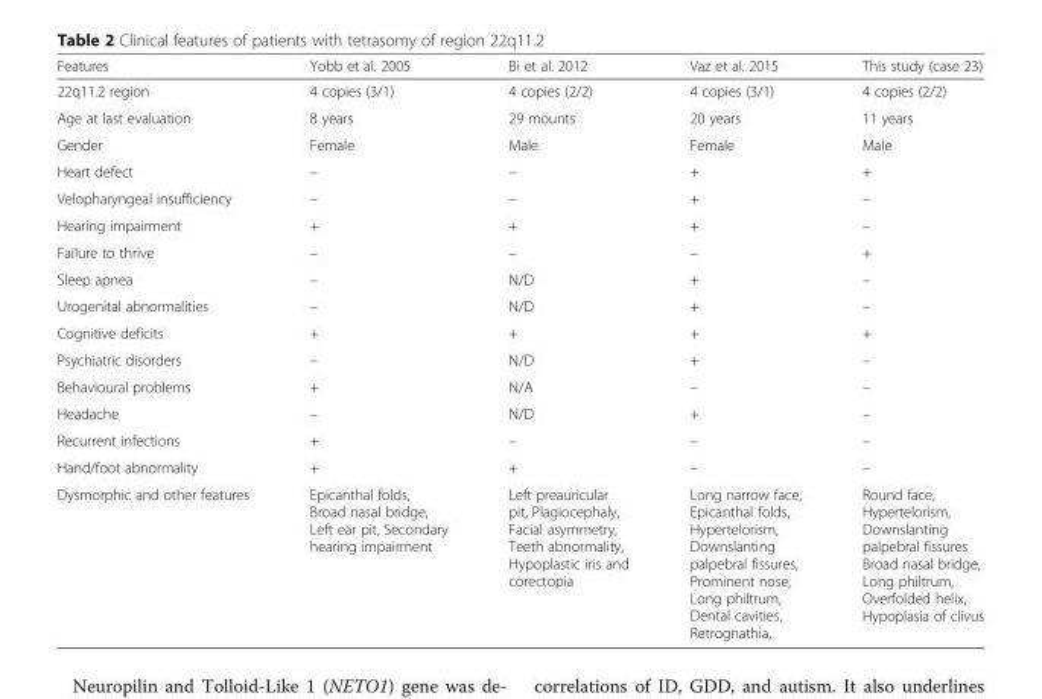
<table><thead><tr><td>Features</td><td>Yobb et al. 2005</td><td>Bi et al. 2012</td><td>Vaz et al. 2015</td><td>This study (case 23)</td></tr></thead><tbody><tr><td>22q11.2 region</td><td>4 copies (3/1)</td><td>4 copies (2/2)</td><td>4 copies (3/1)</td><td>4 copies (2/2)</td></tr><tr><td>Age at last evaluation</td><td>8 years</td><td>29 mounts</td><td>20 years</td><td>11 years</td></tr><tr><td>Gender</td><td>Female</td><td>Male</td><td>Female</td><td>Male</td></tr><tr><td>Heart defect</td><td>–</td><td>–</td><td>+</td><td>+</td></tr><tr><td>Velopharyngeal insufficiency</td><td>–</td><td>–</td><td>+</td><td>–</td></tr><tr><td>Hearing impairment</td><td>+</td><td>+</td><td>+</td><td>–</td></tr><tr><td>Failure to thrive</td><td>–</td><td>–</td><td>–</td><td>+</td></tr><tr><td>Sleep apnea</td><td>–</td><td>N/D</td><td>+</td><td>–</td></tr><tr><td>Urogenital abnormalities</td><td>–</td><td>N/D</td><td>+</td><td>–</td></tr><tr><td>Cognitive deficits</td><td>+</td><td>+</td><td>+</td><td>+</td></tr><tr><td>Psychiatric disorders</td><td>–</td><td>N/D</td><td>+</td><td>–</td></tr><tr><td>Behavioural problems</td><td>+</td><td>N/A</td><td>–</td><td>–</td></tr><tr><td>Headache</td><td>–</td><td>N/D</td><td>+</td><td>–</td></tr><tr><td>Recurrent infections</td><td>+</td><td>–</td><td>–</td><td>–</td></tr><tr><td>Hand/foot abnormality</td><td>+</td><td>+</td><td>–</td><td>–</td></tr><tr><td>Dysmorphic and other features</td><td>Epicanthal folds, Broad nasal bridge, Left ear pit, Secondary hearing impairment</td><td>Left preauricular pit, Plagiocephaly, Facial asymmetry, Teeth abnormality, Hypoplastic iris and corectopia</td><td>Long narrow face, Epicanthal folds, Hypertelorism, Downslanting palpebral fissures, Prominent nose, Long philtrum, Dental cavities, Retrognathia,</td><td>Round face, Hypertelorism, Downslanting palpebral fissures Broad nasal bridge, Long philtrum, Overfolded helix, Hypoplasia of clivus</td></tr></tbody></table>